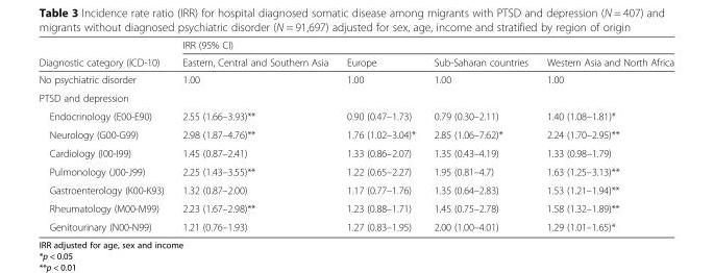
<table><thead><tr><td rowspan="2">Diagnostic category (ICD-10)</td><td colspan="4">IRR (95% CI)</td></tr><tr><td>Eastern, Central and Southern Asia</td><td>Europe</td><td>Sub-Saharan countries</td><td>Western Asia and North Africa</td></tr></thead><tbody><tr><td>No psychiatric disorder</td><td>1.00</td><td>1.00</td><td>1.00</td><td>1.00</td></tr><tr><td colspan="5">PTSD and depression</td></tr><tr><td>Endocrinology (E00-E90)</td><td>2.55 (1.66–3.93)**</td><td>0.90 (0.47–1.73)</td><td>0.79 (0.30–2.11)</td><td>1.40 (1.08–1.81)*</td></tr><tr><td>Neurology (G00-G99)</td><td>2.98 (1.87–4.76)**</td><td>1.76 (1.02–3.04)*</td><td>2.85 (1.06–7.62)*</td><td>2.24 (1.70–2.95)**</td></tr><tr><td>Cardiology (I00-I99)</td><td>1.45 (0.87–2.41)</td><td>1.33 (0.86–2.07)</td><td>1.35 (0.43–4.19)</td><td>1.33 (0.98–1.79)</td></tr><tr><td>Pulmonology (J00-J99)</td><td>2.25 (1.43–3.55)**</td><td>1.22 (0.65–2.27)</td><td>1.95 (0.81–4.7)</td><td>1.63 (1.25–3.13)**</td></tr><tr><td>Gastroenterology (K00-K93)</td><td>1.32 (0.87–2.00)</td><td>1.17 (0.77–1.76)</td><td>1.35 (0.64–2.83)</td><td>1.53 (1.21–1.94)**</td></tr><tr><td>Rheumatology (M00-M99)</td><td>2.23 (1.67–2.98)**</td><td>1.23 (0.88–1.71)</td><td>1.45 (0.75–2.78)</td><td>1.58 (1.32–1.89)**</td></tr><tr><td>Genitourinary (N00-N99)</td><td>1.21 (0.76–1.93)</td><td>1.27 (0.83–1.95)</td><td>2.00 (1.00–4.01)</td><td>1.29 (1.01–1.65)*</td></tr></tbody></table>